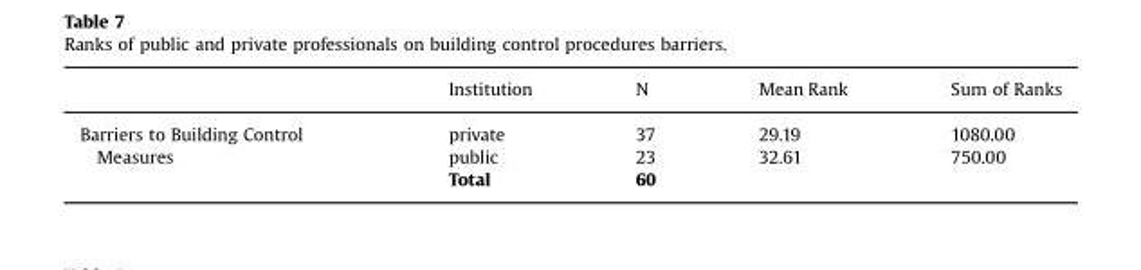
<table><thead><tr><td></td><td>Institution</td><td>N</td><td>Mean Rank</td><td>Sum of Ranks</td></tr></thead><tbody><tr><td rowspan="3">Barriers to Building Control Measures</td><td>private</td><td>37</td><td>29.19</td><td>1080.00</td></tr><tr><td>public</td><td>23</td><td>32.61</td><td>750.00</td></tr><tr><td>Total</td><td>60</td><td></td><td></td></tr></tbody></table>